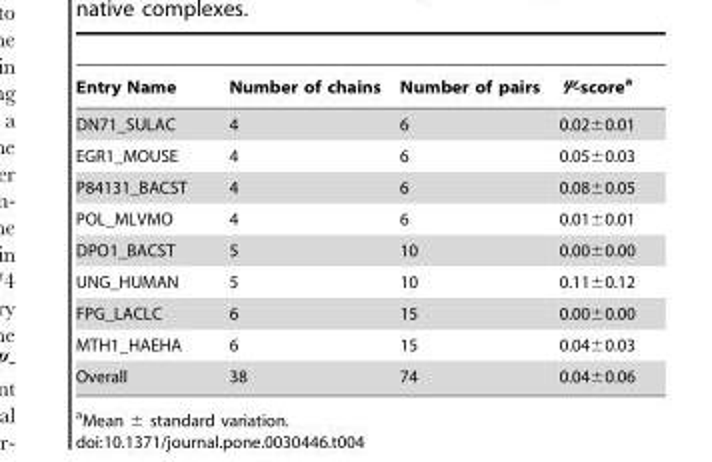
<table><thead><tr><td>Entry Name</td><td>Number of chains</td><td>Number of pairs</td><td>Ψ-score<sup>a</sup></td></tr></thead><tbody><tr><td>DN71_SULAC</td><td>4</td><td>6</td><td>0.02±0.01</td></tr><tr><td>EGR1_MOUSE</td><td>4</td><td>6</td><td>0.05±0.03</td></tr><tr><td>P84131_BACST</td><td>4</td><td>6</td><td>0.08±0.05</td></tr><tr><td>POL_MLVMO</td><td>4</td><td>6</td><td>0.01±0.01</td></tr><tr><td>DPO1_BACST</td><td>5</td><td>10</td><td>0.00±0.00</td></tr><tr><td>UNG_HUMAN</td><td>5</td><td>10</td><td>0.11±0.12</td></tr><tr><td>FPG_LACLC</td><td>6</td><td>15</td><td>0.00±0.00</td></tr><tr><td>MTH1_HAEHA</td><td>6</td><td>15</td><td>0.04±0.03</td></tr><tr><td>Overall</td><td>38</td><td>74</td><td>0.04±0.06</td></tr></tbody></table>